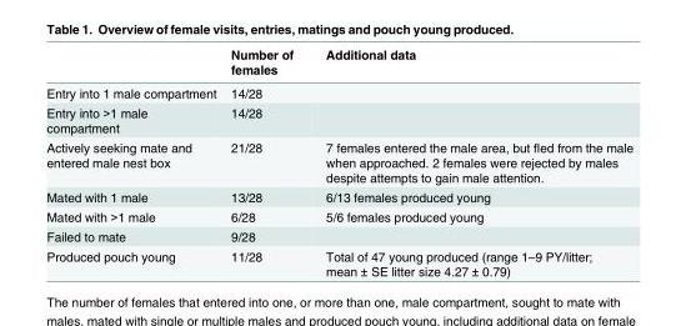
<table><thead><tr><td></td><td>Number of females</td><td>Additional data</td></tr></thead><tbody><tr><td>Entry into 1 male compartment</td><td>14/28</td><td></td></tr><tr><td>Entry into &gt;1 male compartment</td><td>14/28</td><td></td></tr><tr><td>Actively seeking mate and entered male nest box</td><td>21/28</td><td>7 females entered the male area, but fled from the male when approached. 2 females were rejected by males despite attempts to gain male attention.</td></tr><tr><td>Mated with 1 male</td><td>13/28</td><td>6/13 females produced young</td></tr><tr><td>Mated with &gt;1 male</td><td>6/28</td><td>5/6 females produced young</td></tr><tr><td>Failed to mate</td><td>9/28</td><td></td></tr><tr><td>Produced pouch young</td><td>11/28</td><td>Total of 47 young produced (range 1–9 PY/litter; mean ± SE litter size 4.27 ± 0.79)</td></tr></tbody></table>